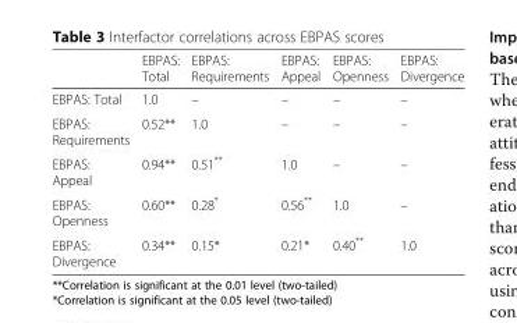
<table><thead><tr><td></td><td>EBPAS: Total</td><td>EBPAS: Requirements</td><td>EBPAS: Appeal</td><td>EBPAS: Openness</td><td>EBPAS: Divergence</td></tr></thead><tbody><tr><td>EBPAS: Total</td><td>1.0</td><td>–</td><td>–</td><td>–</td><td>–</td></tr><tr><td>EBPAS: Requirements</td><td>0.52**</td><td>1.0</td><td>–</td><td>–</td><td>–</td></tr><tr><td>EBPAS: Appeal</td><td>0.94**</td><td>0.51**</td><td>1.0</td><td>–</td><td>–</td></tr><tr><td>EBPAS: Openness</td><td>0.60**</td><td>0.28*</td><td>0.56**</td><td>1.0</td><td>–</td></tr><tr><td>EBPAS: Divergence</td><td>0.34**</td><td>0.15*</td><td>0.21*</td><td>0.40**</td><td>1.0</td></tr></tbody></table>